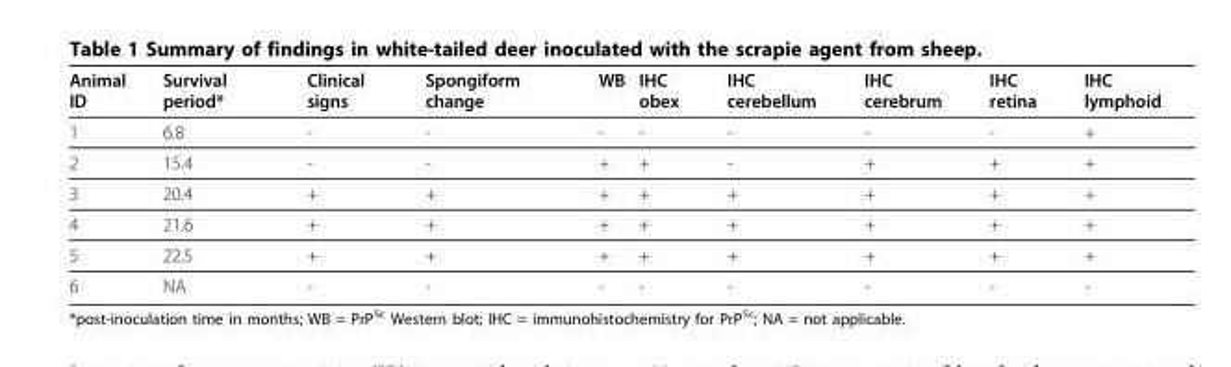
<table><thead><tr><td>Animal ID</td><td>Survival period*</td><td>Clinical signs</td><td>Spongiform change</td><td>WB</td><td>IHC obex</td><td>IHC cerebellum</td><td>IHC cerebrum</td><td>IHC retina</td><td>IHC lymphoid</td></tr></thead><tbody><tr><td>1</td><td>6.8</td><td>-</td><td>-</td><td>-</td><td>-</td><td>-</td><td>-</td><td>-</td><td>+</td></tr><tr><td>2</td><td>15.4</td><td>-</td><td>-</td><td>+</td><td>+</td><td>-</td><td>+</td><td>+</td><td>+</td></tr><tr><td>3</td><td>20.4</td><td>+</td><td>+</td><td>+</td><td>+</td><td>+</td><td>+</td><td>+</td><td>+</td></tr><tr><td>4</td><td>21.6</td><td>+</td><td>+</td><td>+</td><td>+</td><td>+</td><td>+</td><td>+</td><td>+</td></tr><tr><td>5</td><td>22.5</td><td>+</td><td>+</td><td>+</td><td>+</td><td>+</td><td>+</td><td>+</td><td>+</td></tr><tr><td>6</td><td>NA</td><td>-</td><td>-</td><td>-</td><td>-</td><td>-</td><td>-</td><td>-</td><td>-</td></tr></tbody></table>